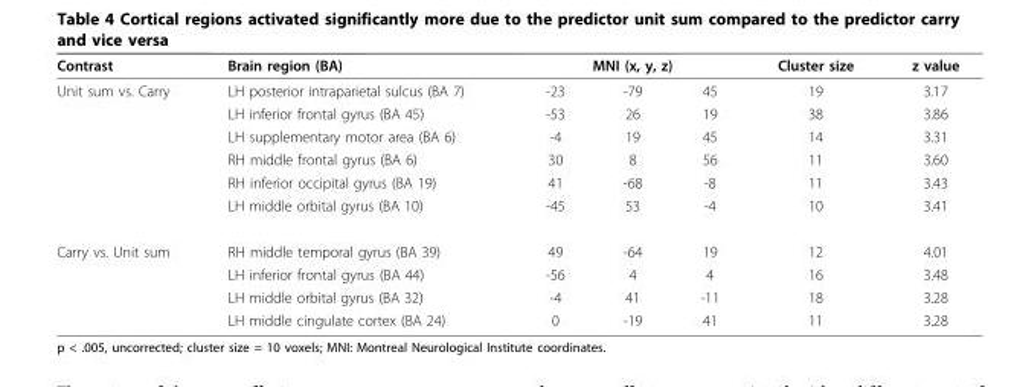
<table><thead><tr><td rowspan="2">Contrast Unit sum vs. Carry</td><td rowspan="2">Brain region (BA) LH posterior intraparietal sulcus (BA 7)</td><td colspan="3">MNI (x, y, z)</td><td rowspan="2">Cluster size 19</td><td rowspan="2">z value 3.17</td></tr><tr><td>-23</td><td>-79</td><td>45</td></tr></thead><tbody><tr><td></td><td>LH inferior frontal gyrus (BA 45)</td><td>-53</td><td>26</td><td>19</td><td>38</td><td>3.86</td></tr><tr><td></td><td>LH supplementary motor area (BA 6)</td><td>-4</td><td>19</td><td>45</td><td>14</td><td>3.31</td></tr><tr><td></td><td>RH middle frontal gyrus (BA 6)</td><td>30</td><td>8</td><td>56</td><td>11</td><td>3.60</td></tr><tr><td></td><td>RH inferior occipital gyrus (BA 19)</td><td>41</td><td>-68</td><td>-8</td><td>11</td><td>3.43</td></tr><tr><td></td><td>LH middle orbital gyrus (BA 10)</td><td>-45</td><td>53</td><td>-4</td><td>10</td><td>3.41</td></tr><tr><td rowspan="4">Carry vs. Unit sum</td><td>RH middle temporal gyrus (BA 39)</td><td>49</td><td>-64</td><td>19</td><td>12</td><td>4.01</td></tr><tr><td>LH inferior frontal gyrus (BA 44)</td><td>-56</td><td>4</td><td>4</td><td>16</td><td>3.48</td></tr><tr><td>LH middle orbital gyrus (BA 32)</td><td>-4</td><td>41</td><td>-11</td><td>18</td><td>3.28</td></tr><tr><td>LH middle cingulate cortex (BA 24)</td><td>0</td><td>-19</td><td>41</td><td>11</td><td>3.28</td></tr></tbody></table>